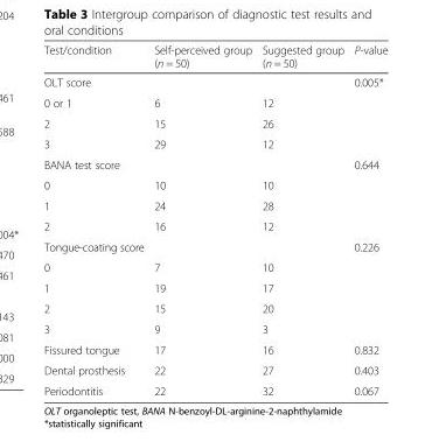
<table><thead><tr><td>Test/condition</td><td>Self-perceived group (n = 50)</td><td>Suggested group (n = 50)</td><td>P-value</td></tr></thead><tbody><tr><td>OLT score</td><td></td><td></td><td>0.005*</td></tr><tr><td>0 or 1</td><td>6</td><td>12</td><td></td></tr><tr><td>2</td><td>15</td><td>26</td><td></td></tr><tr><td>3</td><td>29</td><td>12</td><td></td></tr><tr><td>BANA test score</td><td></td><td></td><td>0.644</td></tr><tr><td>0</td><td>10</td><td>10</td><td></td></tr><tr><td>1</td><td>24</td><td>28</td><td></td></tr><tr><td>2</td><td>16</td><td>12</td><td></td></tr><tr><td>Tongue-coating score</td><td></td><td></td><td>0.226</td></tr><tr><td>0</td><td>7</td><td>10</td><td></td></tr><tr><td>1</td><td>19</td><td>17</td><td></td></tr><tr><td>2</td><td>15</td><td>20</td><td></td></tr><tr><td>3</td><td>9</td><td>3</td><td></td></tr><tr><td>Fissured tongue</td><td>17</td><td>16</td><td>0.832</td></tr><tr><td>Dental prosthesis</td><td>22</td><td>27</td><td>0.403</td></tr><tr><td>Periodontitis</td><td>22</td><td>32</td><td>0.067</td></tr></tbody></table>